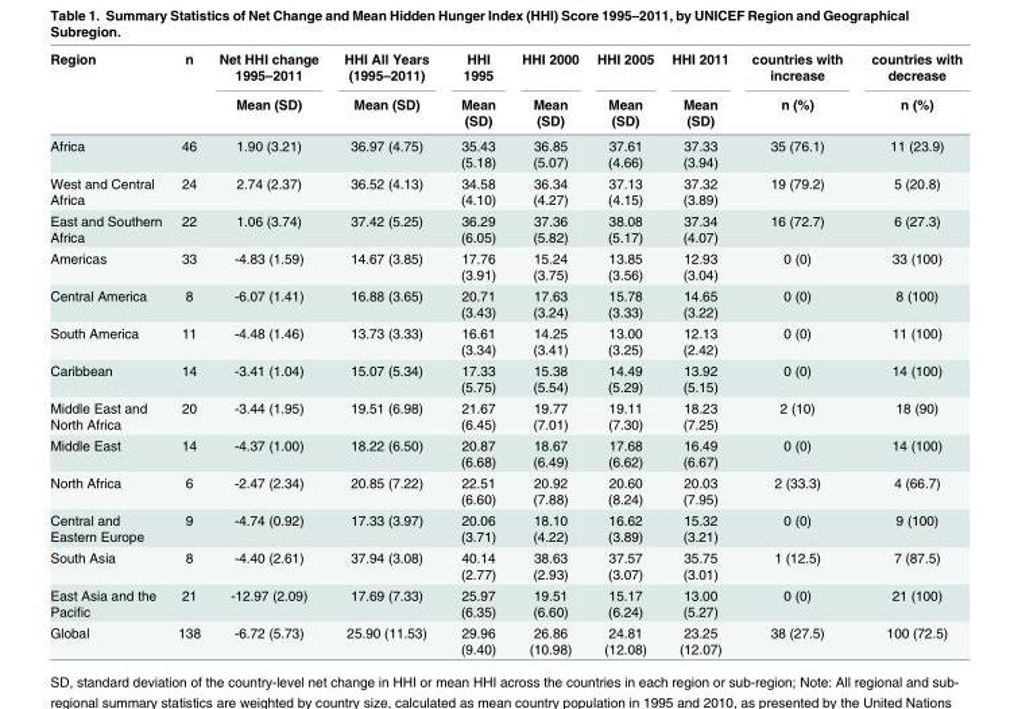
<table><thead><tr><td rowspan="2">Region</td><td rowspan="2">n</td><td rowspan="2">Net HHI change 1995–2011 Mean (SD)</td><td rowspan="2">HHI All Years (1995–2011) Mean (SD)</td><td rowspan="2">HHI 1995 Mean (SD)</td><td rowspan="2">HHI 2000 Mean (SD)</td><td rowspan="2">HHI 2005 Mean (SD)</td><td rowspan="2">HHI 2011 Mean (SD)</td><td rowspan="2">countries with increase n (%)</td><td rowspan="2">countries with decrease n (%)</td></tr><tr></tr></thead><tbody><tr><td>Africa</td><td>46</td><td>1.90 (3.21)</td><td>36.97 (4.75)</td><td>35.43 (5.18)</td><td>36.85 (5.07)</td><td>37.61 (4.66)</td><td>37.33 (3.94)</td><td>35 (76.1)</td><td>11 (23.9)</td></tr><tr><td>West and Central Africa</td><td>24</td><td>2.74 (2.37)</td><td>36.52 (4.13)</td><td>34.58 (4.10)</td><td>36.34 (4.27)</td><td>37.13 (4.15)</td><td>37.32 (3.89)</td><td>19 (79.2)</td><td>5 (20.8)</td></tr><tr><td>East and Southern Africa</td><td>22</td><td>1.06 (3.74)</td><td>37.42 (5.25)</td><td>36.29 (6.05)</td><td>37.36 (5.82)</td><td>38.08 (5.17)</td><td>37.34 (4.07)</td><td>16 (72.7)</td><td>6 (27.3)</td></tr><tr><td>Americas</td><td>33</td><td>-4.83 (1.59)</td><td>14.67 (3.85)</td><td>17.76 (3.91)</td><td>15.24 (3.75)</td><td>13.85 (3.56)</td><td>12.93 (3.04)</td><td>0 (0)</td><td>33 (100)</td></tr><tr><td>Central America</td><td>8</td><td>-6.07 (1.41)</td><td>16.88 (3.65)</td><td>20.71 (3.43)</td><td>17.63 (3.24)</td><td>15.78 (3.33)</td><td>14.65 (3.22)</td><td>0 (0)</td><td>8 (100)</td></tr><tr><td>South America</td><td>11</td><td>-4.48 (1.46)</td><td>13.73 (3.33)</td><td>16.61 (3.34)</td><td>14.25 (3.41)</td><td>13.00 (3.25)</td><td>12.13 (2.42)</td><td>0 (0)</td><td>11 (100)</td></tr><tr><td>Caribbean</td><td>14</td><td>-3.41 (1.04)</td><td>15.07 (5.34)</td><td>17.33 (5.75)</td><td>15.38 (5.54)</td><td>14.49 (5.29)</td><td>13.92 (5.15)</td><td>0 (0)</td><td>14 (100)</td></tr><tr><td>Middle East and North Africa</td><td>20</td><td>-3.44 (1.95)</td><td>19.51 (6.98)</td><td>21.67 (6.45)</td><td>19.77 (7.01)</td><td>19.11 (7.30)</td><td>18.23 (7.25)</td><td>2 (10)</td><td>18 (90)</td></tr><tr><td>Middle East</td><td>14</td><td>-4.37 (1.00)</td><td>18.22 (6.50)</td><td>20.87 (6.68)</td><td>18.67 (6.49)</td><td>17.68 (6.62)</td><td>16.49 (6.67)</td><td>0 (0)</td><td>14 (100)</td></tr><tr><td>North Africa</td><td>6</td><td>-2.47 (2.34)</td><td>20.85 (7.22)</td><td>22.51 (6.60)</td><td>20.92 (7.88)</td><td>20.60 (8.24)</td><td>20.03 (7.95)</td><td>2 (33.3)</td><td>4 (66.7)</td></tr><tr><td>Central and Eastern Europe</td><td>9</td><td>-4.74 (0.92)</td><td>17.33 (3.97)</td><td>20.06 (3.71)</td><td>18.10 (4.22)</td><td>16.62 (3.89)</td><td>15.32 (3.21)</td><td>0 (0)</td><td>9 (100)</td></tr><tr><td>South Asia</td><td>8</td><td>-4.40 (2.61)</td><td>37.94 (3.08)</td><td>40.14 (2.77)</td><td>38.63 (2.93)</td><td>37.57 (3.07)</td><td>35.75 (3.01)</td><td>1 (12.5)</td><td>7 (87.5)</td></tr><tr><td>East Asia and the Pacific</td><td>21</td><td>-12.97 (2.09)</td><td>17.69 (7.33)</td><td>25.97 (6.35)</td><td>19.51 (6.60)</td><td>15.17 (6.24)</td><td>13.00 (5.27)</td><td>0 (0)</td><td>21 (100)</td></tr><tr><td>Global</td><td>138</td><td>-6.72 (5.73)</td><td>25.90 (11.53)</td><td>29.96 (9.40)</td><td>26.86 (10.98)</td><td>24.81 (12.08)</td><td>23.25 (12.07)</td><td>38 (27.5)</td><td>100 (72.5)</td></tr></tbody></table>